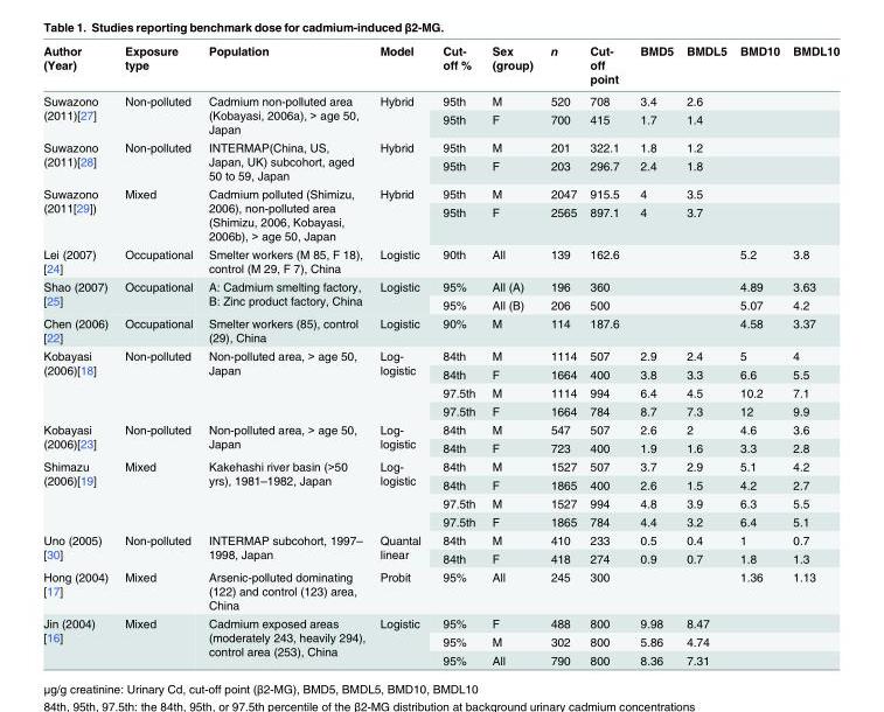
<table><thead><tr><td>Author (Year)</td><td>Exposure type</td><td>Population</td><td>Model</td><td>Cut- off %</td><td>Sex (group)</td><td>n</td><td>Cut- off point</td><td>BMD5</td><td>BMDL5</td><td>BMD10</td><td>BMDL10</td></tr></thead><tbody><tr><td rowspan="2">Suwazono (2011)[27]</td><td rowspan="2">Non-polluted</td><td rowspan="2">Cadmium non-polluted area (Kobayasi, 2006a), &gt; age 50, Japan</td><td rowspan="2">Hybrid</td><td>95th</td><td>M</td><td>520</td><td>708</td><td>3.4</td><td>2.6</td><td></td><td></td></tr><tr><td>95th</td><td>F</td><td>700</td><td>415</td><td>1.7</td><td>1.4</td><td></td><td></td></tr><tr><td rowspan="2">Suwazono (2011)[28]</td><td rowspan="2">Non-polluted</td><td rowspan="2">INTERMAP(China, US, Japan, UK) subcohort, aged 50 to 59, Japan</td><td rowspan="2">Hybrid</td><td>95th</td><td>M</td><td>201</td><td>322.1</td><td>1.8</td><td>1.2</td><td></td><td></td></tr><tr><td>95th</td><td>F</td><td>203</td><td>296.7</td><td>2.4</td><td>1.8</td><td></td><td></td></tr><tr><td rowspan="2">Suwazono (2011[29])</td><td rowspan="2">Mixed</td><td rowspan="2">Cadmium polluted (Shimizu, 2006), non-polluted area (Shimizu, 2006, Kobayasi, 2006b), &gt; age 50, Japan</td><td rowspan="2">Hybrid</td><td>95th</td><td>M</td><td>2047</td><td>915.5</td><td>4</td><td>3.5</td><td></td><td></td></tr><tr><td>95th</td><td>F</td><td>2565</td><td>897.1</td><td>4</td><td>3.7</td><td></td><td></td></tr><tr><td>Lei (2007) [24]</td><td>Occupational</td><td>Smelter workers (M 85, F 18), control (M 29, F 7), China</td><td>Logistic</td><td>90th</td><td>All</td><td>139</td><td>162.6</td><td></td><td></td><td>5.2</td><td>3.8</td></tr><tr><td rowspan="2">Shao (2007) [25]</td><td rowspan="2">Occupational</td><td rowspan="2">A: Cadmium smelting factory, B: Zinc product factory, China</td><td rowspan="2">Logistic</td><td>95%</td><td>All (A)</td><td>196</td><td>360</td><td></td><td></td><td>4.89</td><td>3.63</td></tr><tr><td>95%</td><td>All (B)</td><td>206</td><td>500</td><td></td><td></td><td>5.07</td><td>4.2</td></tr><tr><td>Chen (2006) [22]</td><td>Occupational</td><td>Smelter workers (85), control (29), China</td><td>Logistic</td><td>90%</td><td>M</td><td>114</td><td>187.6</td><td></td><td></td><td>4.58</td><td>3.37</td></tr><tr><td rowspan="4">Kobayasi (2006)[18]</td><td rowspan="4">Non-polluted</td><td rowspan="4">Non-polluted area, &gt; age 50, Japan</td><td rowspan="4">Log- logistic</td><td>84th</td><td>M</td><td>1114</td><td>507</td><td>2.9</td><td>2.4</td><td>5</td><td>4</td></tr><tr><td>84th</td><td>F</td><td>1664</td><td>400</td><td>3.8</td><td>3.3</td><td>6.6</td><td>5.5</td></tr><tr><td>97.5th</td><td>M</td><td>1114</td><td>994</td><td>6.4</td><td>4.5</td><td>10.2</td><td>7.1</td></tr><tr><td>97.5th</td><td>F</td><td>1664</td><td>784</td><td>8.7</td><td>7.3</td><td>12</td><td>9.9</td></tr><tr><td rowspan="2">Kobayasi (2006)[23]</td><td rowspan="2">Non-polluted</td><td rowspan="2">Non-polluted area, &gt; age 50, Japan</td><td rowspan="2">Log- logistic</td><td>84th</td><td>M</td><td>547</td><td>507</td><td>2.6</td><td>2</td><td>4.6</td><td>3.6</td></tr><tr><td>84th</td><td>F</td><td>723</td><td>400</td><td>1.9</td><td>1.6</td><td>3.3</td><td>2.8</td></tr><tr><td rowspan="4">Shimazu (2006)[19]</td><td rowspan="4">Mixed</td><td rowspan="4">Kakehashi river basin (&gt;50 yrs), 1981–1982, Japan</td><td rowspan="4">Log- logistic</td><td>84th</td><td>M</td><td>1527</td><td>507</td><td>3.7</td><td>2.9</td><td>5.1</td><td>4.2</td></tr><tr><td>84th</td><td>F</td><td>1865</td><td>400</td><td>2.6</td><td>1.5</td><td>4.2</td><td>2.7</td></tr><tr><td>97.5th</td><td>M</td><td>1527</td><td>994</td><td>4.8</td><td>3.9</td><td>6.3</td><td>5.5</td></tr><tr><td>97.5th</td><td>F</td><td>1865</td><td>784</td><td>4.4</td><td>3.2</td><td>6.4</td><td>5.1</td></tr><tr><td rowspan="2">Uno (2005) [30]</td><td rowspan="2">Non-polluted</td><td rowspan="2">INTERMAP subcohort, 1997– 1998, Japan</td><td rowspan="2">Quantal linear</td><td>84th</td><td>M</td><td>410</td><td>233</td><td>0.5</td><td>0.4</td><td>1</td><td>0.7</td></tr><tr><td>84th</td><td>F</td><td>418</td><td>274</td><td>0.9</td><td>0.7</td><td>1.8</td><td>1.3</td></tr><tr><td>Hong (2004) [17]</td><td>Mixed</td><td>Arsenic-polluted dominating (122) and control (123) area, China</td><td>Probit</td><td>95%</td><td>All</td><td>245</td><td>300</td><td></td><td></td><td>1.36</td><td>1.13</td></tr><tr><td rowspan="3">Jin (2004) [16]</td><td rowspan="3">Mixed</td><td rowspan="3">Cadmium exposed areas (moderately 243, heavily 294), control area (253), China</td><td rowspan="3">Logistic</td><td>95%</td><td>F</td><td>488</td><td>800</td><td>9.98</td><td>8.47</td><td></td><td></td></tr><tr><td>95%</td><td>M</td><td>302</td><td>800</td><td>5.86</td><td>4.74</td><td></td><td></td></tr><tr><td>95%</td><td>All</td><td>790</td><td>800</td><td>8.36</td><td>7.31</td><td></td><td></td></tr></tbody></table>